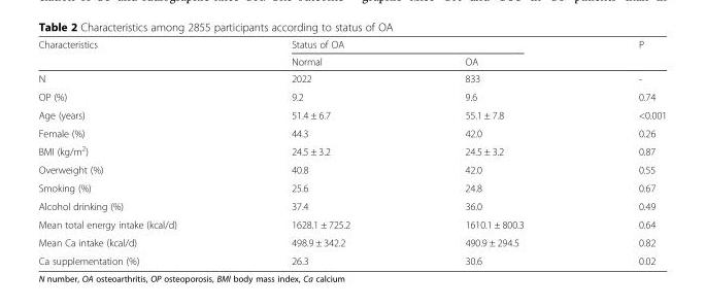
<table><thead><tr><td rowspan="2">Characteristics</td><td colspan="2">Status of OA</td><td rowspan="2">P</td></tr><tr><td>Normal</td><td>OA</td></tr></thead><tbody><tr><td>N</td><td>2022</td><td>833</td><td>-</td></tr><tr><td>OP (%)</td><td>9.2</td><td>9.6</td><td>0.74</td></tr><tr><td>Age (years)</td><td>51.4 ± 6.7</td><td>55.1 ± 7.8</td><td>&lt;0.001</td></tr><tr><td>Female (%)</td><td>44.3</td><td>42.0</td><td>0.26</td></tr><tr><td>BMI (kg/m<sup>2</sup>)</td><td>24.5 ± 3.2</td><td>24.5 ± 3.2</td><td>0.87</td></tr><tr><td>Overweight (%)</td><td>40.8</td><td>42.0</td><td>0.55</td></tr><tr><td>Smoking (%)</td><td>25.6</td><td>24.8</td><td>0.67</td></tr><tr><td>Alcohol drinking (%)</td><td>37.4</td><td>36.0</td><td>0.49</td></tr><tr><td>Mean total energy intake (kcal/d)</td><td>1628.1 ± 725.2</td><td>1610.1 ± 800.3</td><td>0.64</td></tr><tr><td>Mean Ca intake (kcal/d)</td><td>498.9 ± 342.2</td><td>490.9 ± 294.5</td><td>0.82</td></tr><tr><td>Ca supplementation (%)</td><td>26.3</td><td>30.6</td><td>0.02</td></tr></tbody></table>